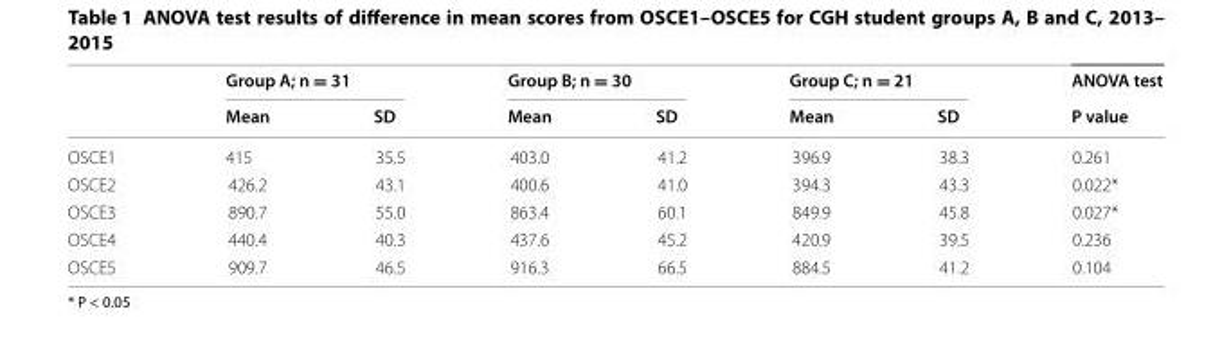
<table><thead><tr><td rowspan="2"></td><td colspan="2">Group A; n = 31</td><td colspan="2">Group B; n = 30</td><td colspan="2">Group C; n = 21</td><td rowspan="2">ANOVA test P value</td></tr><tr><td>Mean</td><td>SD</td><td>Mean</td><td>SD</td><td>Mean</td><td>SD</td></tr></thead><tbody><tr><td>OSCE1</td><td>415</td><td>35.5</td><td>403.0</td><td>41.2</td><td>396.9</td><td>38.3</td><td>0.261</td></tr><tr><td>OSCE2</td><td>426.2</td><td>43.1</td><td>400.6</td><td>41.0</td><td>394.3</td><td>43.3</td><td>0.022*</td></tr><tr><td>OSCE3</td><td>890.7</td><td>55.0</td><td>863.4</td><td>60.1</td><td>849.9</td><td>45.8</td><td>0.027*</td></tr><tr><td>OSCE4</td><td>440.4</td><td>40.3</td><td>437.6</td><td>45.2</td><td>420.9</td><td>39.5</td><td>0.236</td></tr><tr><td>OSCE5</td><td>909.7</td><td>46.5</td><td>916.3</td><td>66.5</td><td>884.5</td><td>41.2</td><td>0.104</td></tr></tbody></table>